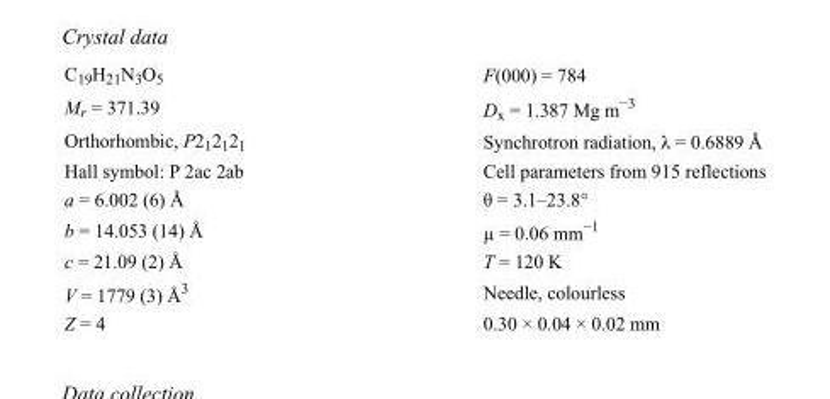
<table><tbody><tr><td>C<sub>19</sub>H<sub>21</sub>N<sub>3</sub>O<sub>5</sub></td><td>F(000) = 784</td></tr><tr><td>M<sub>r</sub> = 371.39</td><td>D<sub>x</sub> = 1.387 Mg m<sup>−3</sup></td></tr><tr><td>Orthorhombic, P2<sub>1</sub>2<sub>1</sub>2<sub>1</sub></td><td>Synchrotron radiation, λ = 0.6889 Å</td></tr><tr><td>Hall symbol: P 2ac 2ab</td><td>Cell parameters from 915 reflections</td></tr><tr><td>a = 6.002 (6) Å</td><td>θ = 3.1–23.8°</td></tr><tr><td>b = 14.053 (14) Å</td><td>µ = 0.06 mm<sup>−1</sup></td></tr><tr><td>c = 21.09 (2) Å</td><td>T = 120 K</td></tr><tr><td>V = 1779 (3) Å<sup>3</sup></td><td>Needle, colourless</td></tr><tr><td>Z = 4</td><td>0.30 × 0.04 × 0.02 mm</td></tr></tbody></table>